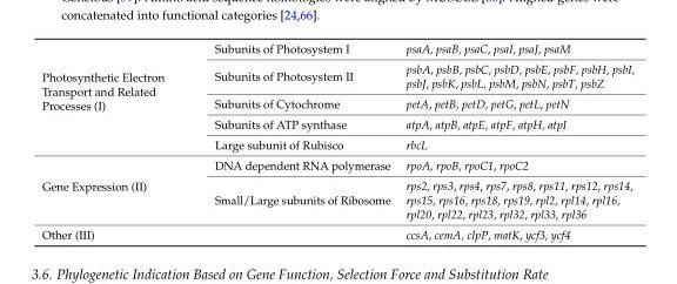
<table><tbody><tr><td rowspan="5">Photosynthetic Electron Transport and Related Processes (I)</td><td>Subunits of Photosystem I</td><td>psaA, psaB, psaC, psaI, psaJ, psaM</td></tr><tr><td>Subunits of Photosystem II</td><td>psbA, psbB, psbC, psbD, psbE, psbF, psbH, psbI, psbJ, psbK, psbL, psbM, psbN, psbT, psbZ</td></tr><tr><td>Subunits of Cytochrome</td><td>petA, petB, petD, petG, petL, petN</td></tr><tr><td>Subunits of ATP synthase</td><td>atpA, atpB, atpE, atpF, atpH, atpI</td></tr><tr><td>Large subunit of Rubisco</td><td>rbcL</td></tr><tr><td rowspan="2">Gene Expression (II)</td><td>DNA dependent RNA polymerase</td><td>rpoA, rpoB, rpoC1, rpoC2</td></tr><tr><td>Small/Large subunits of Ribosome</td><td>rps2, rps3, rps4, rps7, rps8, rps11, rps12, rps14, rps15, rps16, rps18, rps19, rpl2, rpl14, rpl16, rpl20, rpl22, rpl23, rpl32, rpl33, rpl36</td></tr><tr><td>Other (III)</td><td></td><td>ccsA, cemA, clpP, matK, ycf3, ycf4</td></tr></tbody></table>